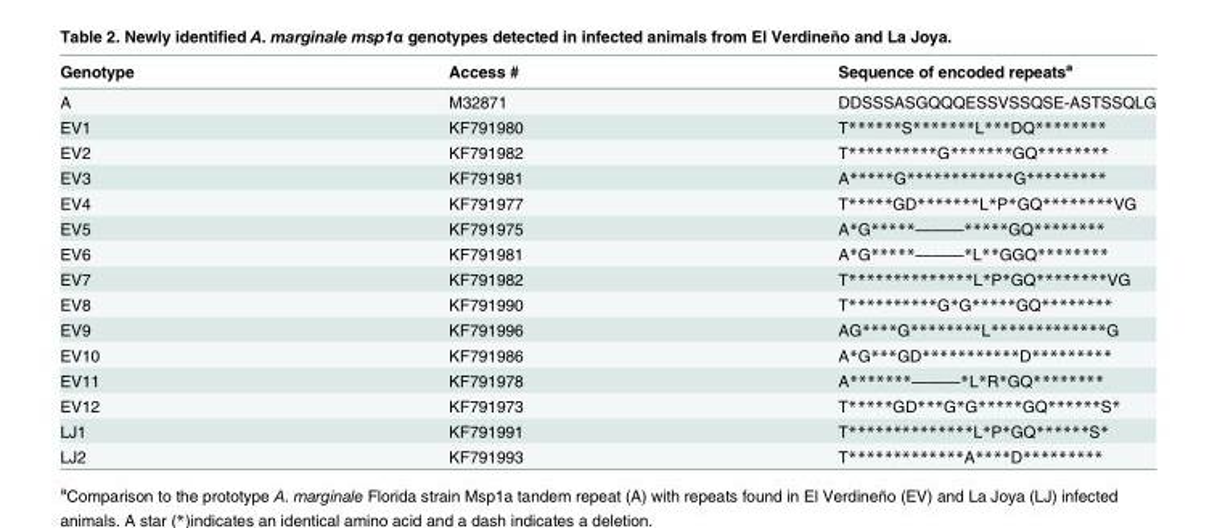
<table><thead><tr><td>Genotype</td><td>Access #</td><td>Sequence of encoded repeats<sup>a</sup></td></tr></thead><tbody><tr><td>A</td><td>M32871</td><td>DDSSSASGQQQESSVSSQSE-ASTSSQLG</td></tr><tr><td>EV1</td><td>KF791980</td><td>T******S*******L***DQ********</td></tr><tr><td>EV2</td><td>KF791982</td><td>T**********G*******GQ********</td></tr><tr><td>EV3</td><td>KF791981</td><td>A*****G************G*********</td></tr><tr><td>EV4</td><td>KF791977</td><td>T*****GD*******L*P*GQ********VG</td></tr><tr><td>EV5</td><td>KF791975</td><td>A*G*****———*****GQ********</td></tr><tr><td>EV6</td><td>KF791981</td><td>A*G*****———*L**GGQ********</td></tr><tr><td>EV7</td><td>KF791982</td><td>T**************L*P*GQ********VG</td></tr><tr><td>EV8</td><td>KF791990</td><td>T**********G*G*****GQ********</td></tr><tr><td>EV9</td><td>KF791996</td><td>AG****G********L*************G</td></tr><tr><td>EV10</td><td>KF791986</td><td>A*G***GD***********D*********</td></tr><tr><td>EV11</td><td>KF791978</td><td>A*******———*L*R*GQ********</td></tr><tr><td>EV12</td><td>KF791973</td><td>T*****GD***G*G*****GQ******S*</td></tr><tr><td>LJ1</td><td>KF791991</td><td>T**************L*P*GQ******S*</td></tr><tr><td>LJ2</td><td>KF791993</td><td>T*************A****D*********</td></tr></tbody></table>